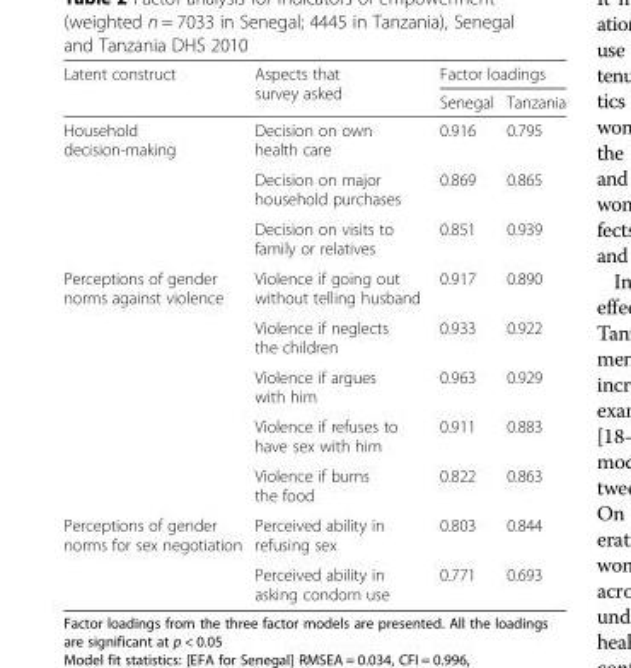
<table><thead><tr><td rowspan="2">Latent construct</td><td rowspan="2">Aspects that survey asked</td><td colspan="2">Factor loadings</td></tr><tr><td>Senegal</td><td>Tanzania</td></tr></thead><tbody><tr><td rowspan="3">Household decision-making</td><td>Decision on own health care</td><td>0.916</td><td>0.795</td></tr><tr><td>Decision on major household purchases</td><td>0.869</td><td>0.865</td></tr><tr><td>Decision on visits to family or relatives</td><td>0.851</td><td>0.939</td></tr><tr><td rowspan="5">Perceptions of gender norms against violence</td><td>Violence if going out without telling husband</td><td>0.917</td><td>0.890</td></tr><tr><td>Violence if neglects the children</td><td>0.933</td><td>0.922</td></tr><tr><td>Violence if argues with him</td><td>0.963</td><td>0.929</td></tr><tr><td>Violence if refuses to have sex with him</td><td>0.911</td><td>0.883</td></tr><tr><td>Violence if burns the food</td><td>0.822</td><td>0.863</td></tr><tr><td rowspan="2">Perceptions of gender norms for sex negotiation</td><td>Perceived ability in refusing sex</td><td>0.803</td><td>0.844</td></tr><tr><td>Perceived ability in asking condom use</td><td>0.771</td><td>0.693</td></tr></tbody></table>